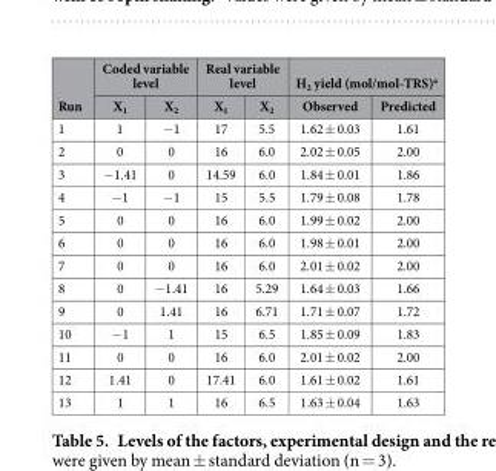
<table><thead><tr><td rowspan="2">Run</td><td colspan="2">Coded variable level</td><td colspan="2">Real variable level</td><td colspan="2">H<sub>2</sub> yield (mol/mol-TRS)<sup>a</sup></td></tr><tr><td>X<sub>1</sub></td><td>X<sub>2</sub></td><td>X<sub>1</sub></td><td>X<sub>2</sub></td><td>Observed</td><td>Predicted</td></tr></thead><tbody><tr><td>1</td><td>1</td><td>− 1</td><td>17</td><td>5.5</td><td>1.62 ± 0.03</td><td>1.61</td></tr><tr><td>2</td><td>0</td><td>0</td><td>16</td><td>6.0</td><td>2.02 ± 0.05</td><td>2.00</td></tr><tr><td>3</td><td>− 1.41</td><td>0</td><td>14.59</td><td>6.0</td><td>1.84 ± 0.01</td><td>1.86</td></tr><tr><td>4</td><td>− 1</td><td>− 1</td><td>15</td><td>5.5</td><td>1.79 ± 0.08</td><td>1.78</td></tr><tr><td>5</td><td>0</td><td>0</td><td>16</td><td>6.0</td><td>1.99 ± 0.02</td><td>2.00</td></tr><tr><td>6</td><td>0</td><td>0</td><td>16</td><td>6.0</td><td>1.98 ± 0.01</td><td>2.00</td></tr><tr><td>7</td><td>0</td><td>0</td><td>16</td><td>6.0</td><td>2.01 ± 0.02</td><td>2.00</td></tr><tr><td>8</td><td>0</td><td>− 1.41</td><td>16</td><td>5.29</td><td>1.64 ± 0.03</td><td>1.66</td></tr><tr><td>9</td><td>0</td><td>1.41</td><td>16</td><td>6.71</td><td>1.71 ± 0.07</td><td>1.72</td></tr><tr><td>10</td><td>− 1</td><td>1</td><td>15</td><td>6.5</td><td>1.85 ± 0.09</td><td>1.83</td></tr><tr><td>11</td><td>0</td><td>0</td><td>16</td><td>6.0</td><td>2.01 ± 0.02</td><td>2.00</td></tr><tr><td>12</td><td>1.41</td><td>0</td><td>17.41</td><td>6.0</td><td>1.61 ± 0.02</td><td>1.61</td></tr><tr><td>13</td><td>1</td><td>1</td><td>16</td><td>6.5</td><td>1.63 ± 0.04</td><td>1.63</td></tr></tbody></table>